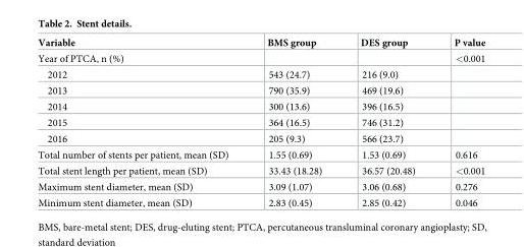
<table><thead><tr><td>Variable</td><td>BMS group</td><td>DES group</td><td>P value</td></tr></thead><tbody><tr><td>Year of PTCA, n (%)</td><td></td><td></td><td>&lt;0.001</td></tr><tr><td>2012</td><td>543 (24.7)</td><td>216 (9.0)</td><td></td></tr><tr><td>2013</td><td>790 (35.9)</td><td>469 (19.6)</td><td></td></tr><tr><td>2014</td><td>300 (13.6)</td><td>396 (16.5)</td><td></td></tr><tr><td>2015</td><td>364 (16.5)</td><td>746 (31.2)</td><td></td></tr><tr><td>2016</td><td>205 (9.3)</td><td>566 (23.7)</td><td></td></tr><tr><td>Total number of stents per patient, mean (SD)</td><td>1.55 (0.69)</td><td>1.53 (0.69)</td><td>0.616</td></tr><tr><td>Total stent length per patient, mean (SD)</td><td>33.43 (18.28)</td><td>36.57 (20.48)</td><td>&lt;0.001</td></tr><tr><td>Maximum stent diameter, mean (SD)</td><td>3.09 (1.07)</td><td>3.06 (0.68)</td><td>0.276</td></tr><tr><td>Minimum stent diameter, mean (SD)</td><td>2.83 (0.45)</td><td>2.85 (0.42)</td><td>0.046</td></tr></tbody></table>